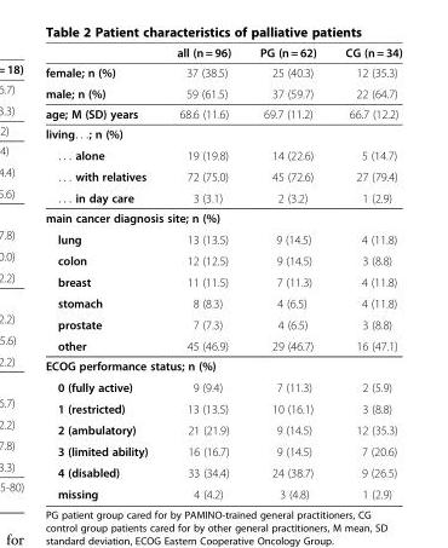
<table><thead><tr><td></td><td>all (n = 96)</td><td>PG (n = 62)</td><td>CG (n = 34)</td></tr></thead><tbody><tr><td>female; n (%)</td><td>37 (38.5)</td><td>25 (40.3)</td><td>12 (35.3)</td></tr><tr><td>male; n (%)</td><td>59 (61.5)</td><td>37 (59.7)</td><td>22 (64.7)</td></tr><tr><td>age; M (SD) years</td><td>68.6 (11.6)</td><td>69.7 (11.2)</td><td>66.7 (12.2)</td></tr><tr><td colspan="4">living. . .; n (%)</td></tr><tr><td>. . . alone</td><td>19 (19.8)</td><td>14 (22.6)</td><td>5 (14.7)</td></tr><tr><td>. . . with relatives</td><td>72 (75.0)</td><td>45 (72.6)</td><td>27 (79.4)</td></tr><tr><td>. . . in day care</td><td>3 (3.1)</td><td>2 (3.2)</td><td>1 (2.9)</td></tr><tr><td colspan="4">main cancer diagnosis site; n (%)</td></tr><tr><td>lung</td><td>13 (13.5)</td><td>9 (14.5)</td><td>4 (11.8)</td></tr><tr><td>colon</td><td>12 (12.5)</td><td>9 (14.5)</td><td>3 (8.8)</td></tr><tr><td>breast</td><td>11 (11.5)</td><td>7 (11.3)</td><td>4 (11.8)</td></tr><tr><td>stomach</td><td>8 (8.3)</td><td>4 (6.5)</td><td>4 (11.8)</td></tr><tr><td>prostate</td><td>7 (7.3)</td><td>4 (6.5)</td><td>3 (8.8)</td></tr><tr><td>other</td><td>45 (46.9)</td><td>29 (46.7)</td><td>16 (47.1)</td></tr><tr><td colspan="4">ECOG performance status; n (%)</td></tr><tr><td>0 (fully active)</td><td>9 (9.4)</td><td>7 (11.3)</td><td>2 (5.9)</td></tr><tr><td>1 (restricted)</td><td>13 (13.5)</td><td>10 (16.1)</td><td>3 (8.8)</td></tr><tr><td>2 (ambulatory)</td><td>21 (21.9)</td><td>9 (14.5)</td><td>12 (35.3)</td></tr><tr><td>3 (limited ability)</td><td>16 (16.7)</td><td>9 (14.5)</td><td>7 (20.6)</td></tr><tr><td>4 (disabled)</td><td>33 (34.4)</td><td>24 (38.7)</td><td>9 (26.5)</td></tr><tr><td>missing</td><td>4 (4.2)</td><td>3 (4.8)</td><td>1 (2.9)</td></tr></tbody></table>